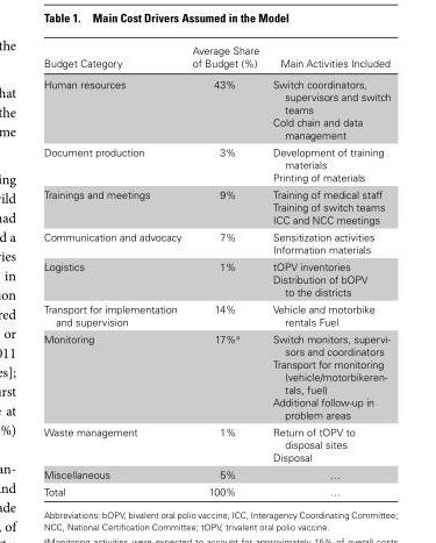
<table><thead><tr><td>Budget Category</td><td>Average Share of Budget (%)</td><td>Main Activities Included</td></tr></thead><tbody><tr><td>Human resources</td><td>43%</td><td>Switch coordinators, supervisors and switch teams Cold chain and data management</td></tr><tr><td>Document production</td><td>3%</td><td>Development of training materials Printing of materials</td></tr><tr><td>Trainings and meetings</td><td>9%</td><td>Training of medical staff Training of switch teams ICC and NCC meetings</td></tr><tr><td>Communication and advocacy</td><td>7%</td><td>Sensitization activities Information materials</td></tr><tr><td>Logistics</td><td>1%</td><td>tOPV inventories Distribution of bOPV to the districts</td></tr><tr><td>Transport for implementation and supervision</td><td>14%</td><td>Vehicle and motorbike rentals Fuel</td></tr><tr><td>Monitoring</td><td>17%<sup>a</sup></td><td>Switch monitors, supervi- sors and coordinators Transport for monitoring (vehicle/motorbikeren- tals, fuel) Additional follow-up in problem areas</td></tr><tr><td>Waste management</td><td>1%</td><td>Return of tOPV to disposal sites Disposal</td></tr><tr><td>Miscellaneous</td><td>5%</td><td>…</td></tr><tr><td>Total</td><td>100%</td><td>…</td></tr></tbody></table>